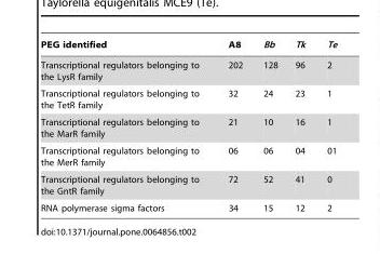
<table><thead><tr><td>PEG identified</td><td>A8</td><td>Bb</td><td>Tk</td><td>Te</td></tr></thead><tbody><tr><td>Transcriptional regulators belonging to the LysR family</td><td>202</td><td>128</td><td>96</td><td>2</td></tr><tr><td>Transcriptional regulators belonging to the TetR family</td><td>32</td><td>24</td><td>23</td><td>1</td></tr><tr><td>Transcriptional regulators belonging to the MarR family</td><td>21</td><td>10</td><td>16</td><td>1</td></tr><tr><td>Transcriptional regulators belonging to the MerR family</td><td>06</td><td>06</td><td>04</td><td>01</td></tr><tr><td>Transcriptional regulators belonging to the GntR family</td><td>72</td><td>52</td><td>41</td><td>0</td></tr><tr><td>RNA polymerase sigma factors</td><td>34</td><td>15</td><td>12</td><td>2</td></tr></tbody></table>